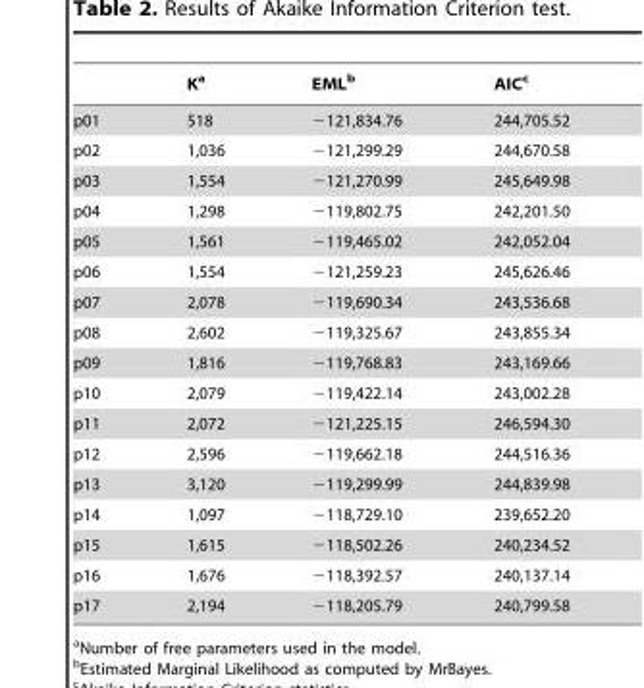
<table><thead><tr><td></td><td>K<sup>a</sup></td><td>EML<sup>b</sup></td><td>AIC<sup>c</sup></td></tr></thead><tbody><tr><td>p01</td><td>518</td><td>−121,834.76</td><td>244,705.52</td></tr><tr><td>p02</td><td>1,036</td><td>−121,299.29</td><td>244,670.58</td></tr><tr><td>p03</td><td>1,554</td><td>−121,270.99</td><td>245,649.98</td></tr><tr><td>p04</td><td>1,298</td><td>−119,802.75</td><td>242,201.50</td></tr><tr><td>p05</td><td>1,561</td><td>−119,465.02</td><td>242,052.04</td></tr><tr><td>p06</td><td>1,554</td><td>−121,259.23</td><td>245,626.46</td></tr><tr><td>p07</td><td>2,078</td><td>−119,690.34</td><td>243,536.68</td></tr><tr><td>p08</td><td>2,602</td><td>−119,325.67</td><td>243,855.34</td></tr><tr><td>p09</td><td>1,816</td><td>−119,768.83</td><td>243,169.66</td></tr><tr><td>p10</td><td>2,079</td><td>−119,422.14</td><td>243,002.28</td></tr><tr><td>p11</td><td>2,072</td><td>−121,225.15</td><td>246,594.30</td></tr><tr><td>p12</td><td>2,596</td><td>−119,662.18</td><td>244,516.36</td></tr><tr><td>p13</td><td>3,120</td><td>−119,299.99</td><td>244,839.98</td></tr><tr><td>p14</td><td>1,097</td><td>−118,729.10</td><td>239,652.20</td></tr><tr><td>p15</td><td>1,615</td><td>−118,502.26</td><td>240,234.52</td></tr><tr><td>p16</td><td>1,676</td><td>−118,392.57</td><td>240,137.14</td></tr><tr><td>p17</td><td>2,194</td><td>−118,205.79</td><td>240,799.58</td></tr></tbody></table>